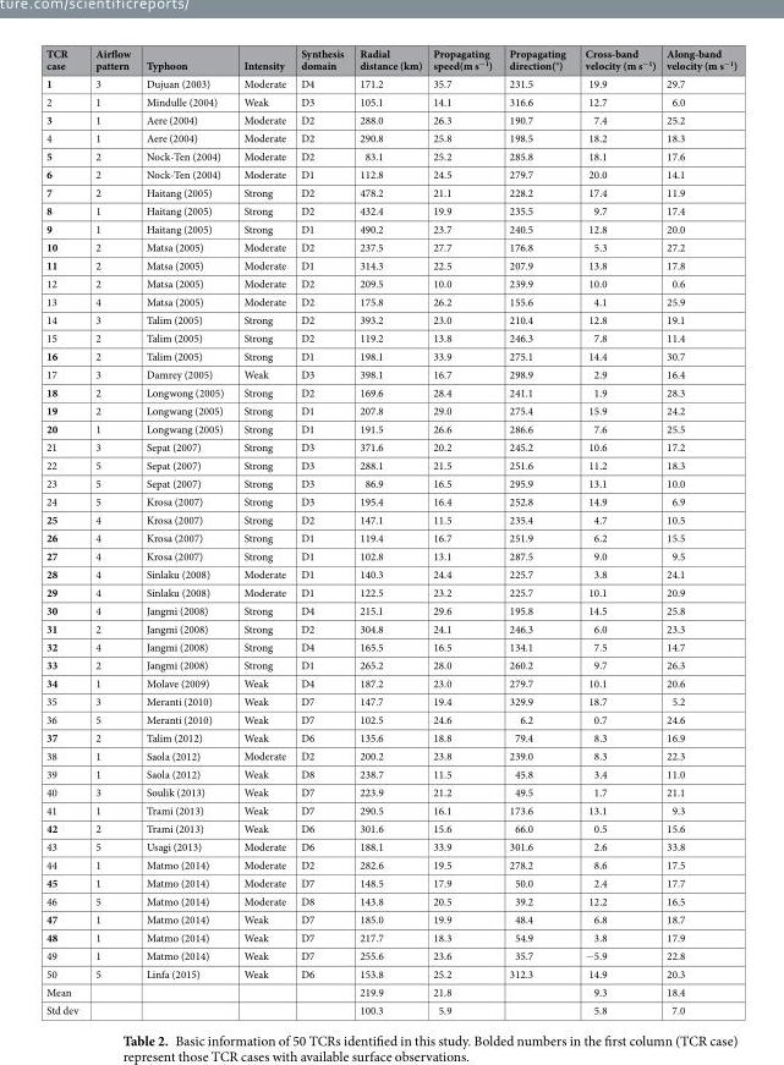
<table><thead><tr><td>TCR case</td><td>Airflow pattern</td><td>Typhoon</td><td>Intensity</td><td>Synthesis domain</td><td>Radial distance (km)</td><td>Propagating speed(m s<sup>−1</sup>)</td><td>Propagating direction(°)</td><td>Cross-band velocity (m s<sup>−1</sup>)</td><td>Along-band velocity (m s<sup>−1</sup>)</td></tr></thead><tbody><tr><td>1</td><td>3</td><td>Dujuan (2003)</td><td>Moderate</td><td>D4</td><td>171.2</td><td>35.7</td><td>231.5</td><td>19.9</td><td>29.7</td></tr><tr><td>2</td><td>1</td><td>Mindulle (2004)</td><td>Weak</td><td>D3</td><td>105.1</td><td>14.1</td><td>316.6</td><td>12.7</td><td>6.0</td></tr><tr><td>3</td><td>1</td><td>Aere (2004)</td><td>Moderate</td><td>D2</td><td>288.0</td><td>26.3</td><td>190.7</td><td>7.4</td><td>25.2</td></tr><tr><td>4</td><td>1</td><td>Aere (2004)</td><td>Moderate</td><td>D2</td><td>290.8</td><td>25.8</td><td>198.5</td><td>18.2</td><td>18.3</td></tr><tr><td>5</td><td>2</td><td>Nock-Ten (2004)</td><td>Moderate</td><td>D2</td><td>83.1</td><td>25.2</td><td>285.8</td><td>18.1</td><td>17.6</td></tr><tr><td>6</td><td>2</td><td>Nock-Ten (2004)</td><td>Moderate</td><td>D1</td><td>112.8</td><td>24.5</td><td>279.7</td><td>20.0</td><td>14.1</td></tr><tr><td>7</td><td>2</td><td>Haitang (2005)</td><td>Strong</td><td>D2</td><td>478.2</td><td>21.1</td><td>228.2</td><td>17.4</td><td>11.9</td></tr><tr><td>8</td><td>1</td><td>Haitang (2005)</td><td>Strong</td><td>D2</td><td>432.4</td><td>19.9</td><td>235.5</td><td>9.7</td><td>17.4</td></tr><tr><td>9</td><td>1</td><td>Haitang (2005)</td><td>Strong</td><td>D1</td><td>490.2</td><td>23.7</td><td>240.5</td><td>12.8</td><td>20.0</td></tr><tr><td>10</td><td>2</td><td>Matsa (2005)</td><td>Moderate</td><td>D2</td><td>237.5</td><td>27.7</td><td>176.8</td><td>5.3</td><td>27.2</td></tr><tr><td>11</td><td>2</td><td>Matsa (2005)</td><td>Moderate</td><td>D1</td><td>314.3</td><td>22.5</td><td>207.9</td><td>13.8</td><td>17.8</td></tr><tr><td>12</td><td>2</td><td>Matsa (2005)</td><td>Moderate</td><td>D2</td><td>209.5</td><td>10.0</td><td>239.9</td><td>10.0</td><td>0.6</td></tr><tr><td>13</td><td>4</td><td>Matsa (2005)</td><td>Moderate</td><td>D2</td><td>175.8</td><td>26.2</td><td>155.6</td><td>4.1</td><td>25.9</td></tr><tr><td>14</td><td>3</td><td>Talim (2005)</td><td>Strong</td><td>D2</td><td>393.2</td><td>23.0</td><td>210.4</td><td>12.8</td><td>19.1</td></tr><tr><td>15</td><td>2</td><td>Talim (2005)</td><td>Strong</td><td>D2</td><td>119.2</td><td>13.8</td><td>246.3</td><td>7.8</td><td>11.4</td></tr><tr><td>16</td><td>2</td><td>Talim (2005)</td><td>Strong</td><td>D1</td><td>198.1</td><td>33.9</td><td>275.1</td><td>14.4</td><td>30.7</td></tr><tr><td>17</td><td>3</td><td>Damrey (2005)</td><td>Weak</td><td>D3</td><td>398.1</td><td>16.7</td><td>298.9</td><td>2.9</td><td>16.4</td></tr><tr><td>18</td><td>2</td><td>Longwong (2005)</td><td>Strong</td><td>D2</td><td>169.6</td><td>28.4</td><td>241.1</td><td>1.9</td><td>28.3</td></tr><tr><td>19</td><td>2</td><td>Longwang (2005)</td><td>Strong</td><td>D1</td><td>207.8</td><td>29.0</td><td>275.4</td><td>15.9</td><td>24.2</td></tr><tr><td>20</td><td>1</td><td>Longwang (2005)</td><td>Strong</td><td>D1</td><td>191.5</td><td>26.6</td><td>286.6</td><td>7.6</td><td>25.5</td></tr><tr><td>21</td><td>3</td><td>Sepat (2007)</td><td>Strong</td><td>D3</td><td>371.6</td><td>20.2</td><td>245.2</td><td>10.6</td><td>17.2</td></tr><tr><td>22</td><td>5</td><td>Sepat (2007)</td><td>Strong</td><td>D3</td><td>288.1</td><td>21.5</td><td>251.6</td><td>11.2</td><td>18.3</td></tr><tr><td>23</td><td>5</td><td>Sepat (2007)</td><td>Strong</td><td>D3</td><td>86.9</td><td>16.5</td><td>295.9</td><td>13.1</td><td>10.0</td></tr><tr><td>24</td><td>5</td><td>Krosa (2007)</td><td>Strong</td><td>D3</td><td>195.4</td><td>16.4</td><td>252.8</td><td>14.9</td><td>6.9</td></tr><tr><td>25</td><td>4</td><td>Krosa (2007)</td><td>Strong</td><td>D2</td><td>147.1</td><td>11.5</td><td>235.4</td><td>4.7</td><td>10.5</td></tr><tr><td>26</td><td>4</td><td>Krosa (2007)</td><td>Strong</td><td>D1</td><td>119.4</td><td>16.7</td><td>251.9</td><td>6.2</td><td>15.5</td></tr><tr><td>27</td><td>4</td><td>Krosa (2007)</td><td>Strong</td><td>D1</td><td>102.8</td><td>13.1</td><td>287.5</td><td>9.0</td><td>9.5</td></tr><tr><td>28</td><td>4</td><td>Sinlaku (2008)</td><td>Moderate</td><td>D1</td><td>140.3</td><td>24.4</td><td>225.7</td><td>3.8</td><td>24.1</td></tr><tr><td>29</td><td>4</td><td>Sinlaku (2008)</td><td>Moderate</td><td>D1</td><td>122.5</td><td>23.2</td><td>225.7</td><td>10.1</td><td>20.9</td></tr><tr><td>30</td><td>4</td><td>Jangmi (2008)</td><td>Strong</td><td>D4</td><td>215.1</td><td>29.6</td><td>195.8</td><td>14.5</td><td>25.8</td></tr><tr><td>31</td><td>2</td><td>Jangmi (2008)</td><td>Strong</td><td>D2</td><td>304.8</td><td>24.1</td><td>246.3</td><td>6.0</td><td>23.3</td></tr><tr><td>32</td><td>4</td><td>Jangmi (2008)</td><td>Strong</td><td>D4</td><td>165.5</td><td>16.5</td><td>134.1</td><td>7.5</td><td>14.7</td></tr><tr><td>33</td><td>2</td><td>Jangmi (2008)</td><td>Strong</td><td>D1</td><td>265.2</td><td>28.0</td><td>260.2</td><td>9.7</td><td>26.3</td></tr><tr><td>34</td><td>1</td><td>Molave (2009)</td><td>Weak</td><td>D4</td><td>187.2</td><td>23.0</td><td>279.7</td><td>10.1</td><td>20.6</td></tr><tr><td>35</td><td>3</td><td>Meranti (2010)</td><td>Weak</td><td>D7</td><td>147.7</td><td>19.4</td><td>329.9</td><td>18.7</td><td>5.2</td></tr><tr><td>36</td><td>5</td><td>Meranti (2010)</td><td>Weak</td><td>D7</td><td>102.5</td><td>24.6</td><td>6.2</td><td>0.7</td><td>24.6</td></tr><tr><td>37</td><td>2</td><td>Talim (2012)</td><td>Weak</td><td>D6</td><td>135.6</td><td>18.8</td><td>79.4</td><td>8.3</td><td>16.9</td></tr><tr><td>38</td><td>1</td><td>Saola (2012)</td><td>Moderate</td><td>D2</td><td>200.2</td><td>23.8</td><td>239.0</td><td>8.3</td><td>22.3</td></tr><tr><td>39</td><td>1</td><td>Saola (2012)</td><td>Weak</td><td>D8</td><td>238.7</td><td>11.5</td><td>45.8</td><td>3.4</td><td>11.0</td></tr><tr><td>40</td><td>3</td><td>Soulik (2013)</td><td>Weak</td><td>D7</td><td>223.9</td><td>21.2</td><td>49.5</td><td>1.7</td><td>21.1</td></tr><tr><td>41</td><td>1</td><td>Trami (2013)</td><td>Weak</td><td>D7</td><td>290.5</td><td>16.1</td><td>173.6</td><td>13.1</td><td>9.3</td></tr><tr><td>42</td><td>2</td><td>Trami (2013)</td><td>Weak</td><td>D6</td><td>301.6</td><td>15.6</td><td>66.0</td><td>0.5</td><td>15.6</td></tr><tr><td>43</td><td>5</td><td>Usagi (2013)</td><td>Moderate</td><td>D6</td><td>188.1</td><td>33.9</td><td>301.6</td><td>2.6</td><td>33.8</td></tr><tr><td>44</td><td>1</td><td>Matmo (2014)</td><td>Moderate</td><td>D2</td><td>282.6</td><td>19.5</td><td>278.2</td><td>8.6</td><td>17.5</td></tr><tr><td>45</td><td>1</td><td>Matmo (2014)</td><td>Moderate</td><td>D7</td><td>148.5</td><td>17.9</td><td>50.0</td><td>2.4</td><td>17.7</td></tr><tr><td>46</td><td>5</td><td>Matmo (2014)</td><td>Moderate</td><td>D8</td><td>143.8</td><td>20.5</td><td>39.2</td><td>12.2</td><td>16.5</td></tr><tr><td>47</td><td>1</td><td>Matmo (2014)</td><td>Weak</td><td>D7</td><td>185.0</td><td>19.9</td><td>48.4</td><td>6.8</td><td>18.7</td></tr><tr><td>48</td><td>1</td><td>Matmo (2014)</td><td>Weak</td><td>D7</td><td>217.7</td><td>18.3</td><td>54.9</td><td>3.8</td><td>17.9</td></tr><tr><td>49</td><td>1</td><td>Matmo (2014)</td><td>Weak</td><td>D7</td><td>255.6</td><td>23.6</td><td>35.7</td><td>−5.9</td><td>22.8</td></tr><tr><td>50</td><td>5</td><td>Linfa (2015)</td><td>Weak</td><td>D6</td><td>153.8</td><td>25.2</td><td>312.3</td><td>14.9</td><td>20.3</td></tr><tr><td>Mean</td><td></td><td></td><td></td><td></td><td>219.9</td><td>21.8</td><td></td><td>9.3</td><td>18.4</td></tr><tr><td>Std dev</td><td></td><td></td><td></td><td></td><td>100.3</td><td>5.9</td><td></td><td>5.8</td><td>7.0</td></tr></tbody></table>